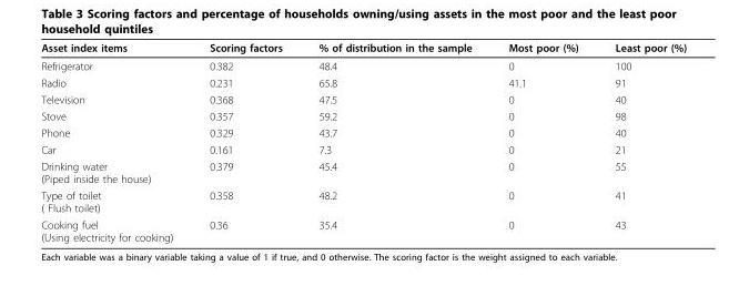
<table><thead><tr><td>Asset index items</td><td>Scoring factors</td><td>% of distribution in the sample</td><td>Most poor (%)</td><td>Least poor (%)</td></tr></thead><tbody><tr><td>Refrigerator</td><td>0.382</td><td>48.4</td><td>0</td><td>100</td></tr><tr><td>Radio</td><td>0.231</td><td>65.8</td><td>41.1</td><td>91</td></tr><tr><td>Television</td><td>0.368</td><td>47.5</td><td>0</td><td>40</td></tr><tr><td>Stove</td><td>0.357</td><td>59.2</td><td>0</td><td>98</td></tr><tr><td>Phone</td><td>0.329</td><td>43.7</td><td>0</td><td>40</td></tr><tr><td>Car</td><td>0.161</td><td>7.3</td><td>0</td><td>21</td></tr><tr><td>Drinking water (Piped inside the house)</td><td>0.379</td><td>45.4</td><td>0</td><td>55</td></tr><tr><td>Type of toilet ( Flush toilet)</td><td>0.358</td><td>48.2</td><td>0</td><td>41</td></tr><tr><td>Cooking fuel (Using electricity for cooking)</td><td>0.36</td><td>35.4</td><td>0</td><td>43</td></tr></tbody></table>